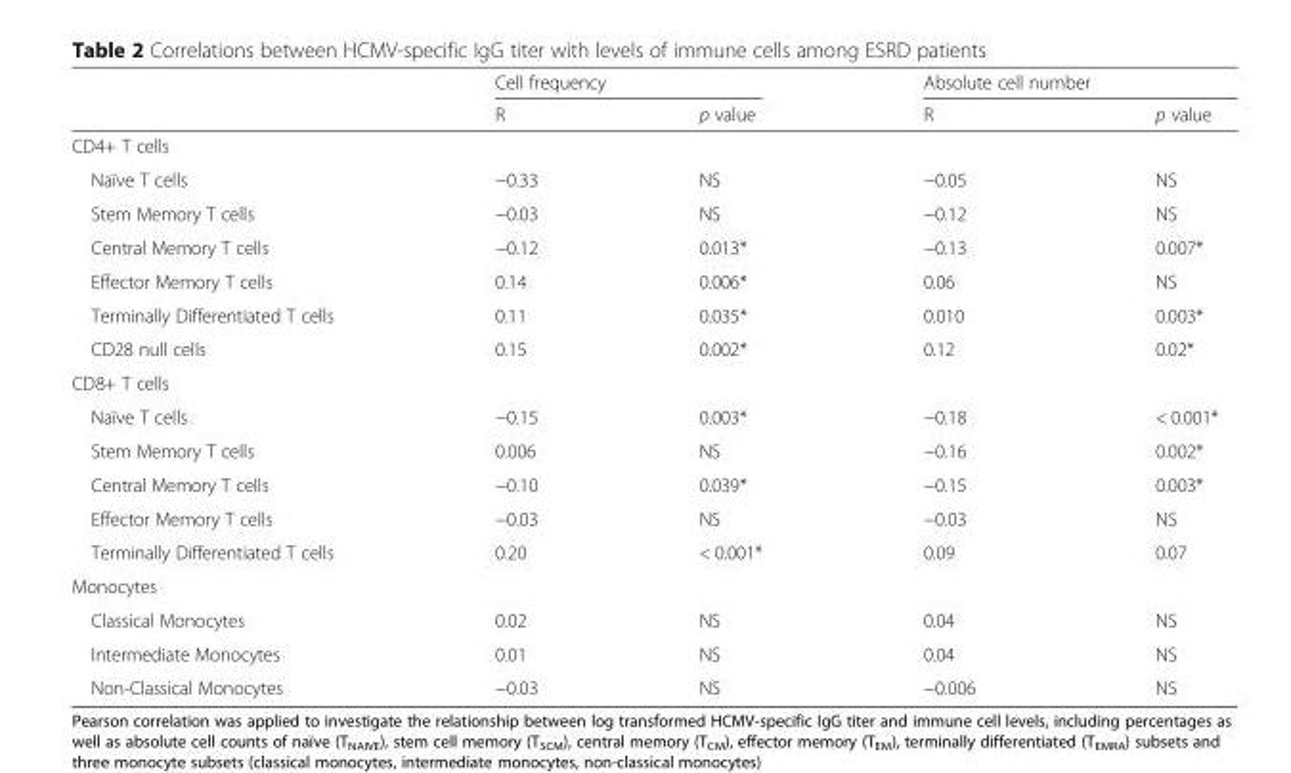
<table><thead><tr><td rowspan="2"></td><td colspan="2">Cell frequency</td><td colspan="2">Absolute cell number</td></tr><tr><td>R</td><td>p value</td><td>R</td><td>p value</td></tr></thead><tbody><tr><td colspan="5">CD4+ T cells</td></tr><tr><td>Naïve T cells</td><td>−0.33</td><td>NS</td><td>−0.05</td><td>NS</td></tr><tr><td>Stem Memory T cells</td><td>−0.03</td><td>NS</td><td>−0.12</td><td>NS</td></tr><tr><td>Central Memory T cells</td><td>−0.12</td><td>0.013*</td><td>−0.13</td><td>0.007*</td></tr><tr><td>Effector Memory T cells</td><td>0.14</td><td>0.006*</td><td>0.06</td><td>NS</td></tr><tr><td>Terminally Differentiated T cells</td><td>0.11</td><td>0.035*</td><td>0.010</td><td>0.003*</td></tr><tr><td>CD28 null cells</td><td>0.15</td><td>0.002*</td><td>0.12</td><td>0.02*</td></tr><tr><td colspan="5">CD8+ T cells</td></tr><tr><td>Naïve T cells</td><td>−0.15</td><td>0.003*</td><td>−0.18</td><td>&lt; 0.001*</td></tr><tr><td>Stem Memory T cells</td><td>0.006</td><td>NS</td><td>−0.16</td><td>0.002*</td></tr><tr><td>Central Memory T cells</td><td>−0.10</td><td>0.039*</td><td>−0.15</td><td>0.003*</td></tr><tr><td>Effector Memory T cells</td><td>−0.03</td><td>NS</td><td>−0.03</td><td>NS</td></tr><tr><td>Terminally Differentiated T cells</td><td>0.20</td><td>&lt; 0.001*</td><td>0.09</td><td>0.07</td></tr><tr><td colspan="5">Monocytes</td></tr><tr><td>Classical Monocytes</td><td>0.02</td><td>NS</td><td>0.04</td><td>NS</td></tr><tr><td>Intermediate Monocytes</td><td>0.01</td><td>NS</td><td>0.04</td><td>NS</td></tr><tr><td>Non-Classical Monocytes</td><td>−0.03</td><td>NS</td><td>−0.006</td><td>NS</td></tr></tbody></table>